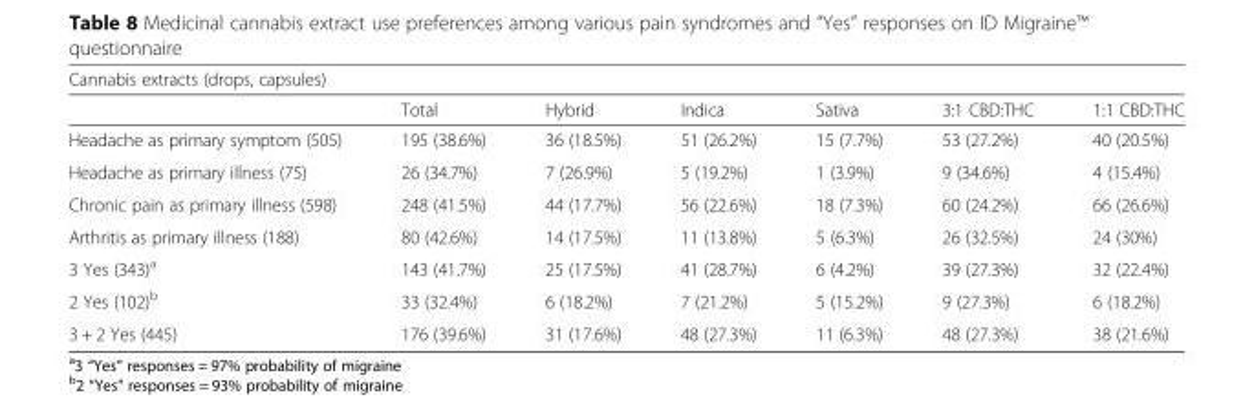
<table><thead><tr><td colspan="7">Cannabis extracts (drops, capsules)</td></tr><tr><td></td><td>Total</td><td>Hybrid</td><td>Indica</td><td>Sativa</td><td>3:1 CBD:THC</td><td>1:1 CBD:THC</td></tr></thead><tbody><tr><td>Headache as primary symptom (505)</td><td>195 (38.6%)</td><td>36 (18.5%)</td><td>51 (26.2%)</td><td>15 (7.7%)</td><td>53 (27.2%)</td><td>40 (20.5%)</td></tr><tr><td>Headache as primary illness (75)</td><td>26 (34.7%)</td><td>7 (26.9%)</td><td>5 (19.2%)</td><td>1 (3.9%)</td><td>9 (34.6%)</td><td>4 (15.4%)</td></tr><tr><td>Chronic pain as primary illness (598)</td><td>248 (41.5%)</td><td>44 (17.7%)</td><td>56 (22.6%)</td><td>18 (7.3%)</td><td>60 (24.2%)</td><td>66 (26.6%)</td></tr><tr><td>Arthritis as primary illness (188)</td><td>80 (42.6%)</td><td>14 (17.5%)</td><td>11 (13.8%)</td><td>5 (6.3%)</td><td>26 (32.5%)</td><td>24 (30%)</td></tr><tr><td>3 Yes (343)<sup>a</sup></td><td>143 (41.7%)</td><td>25 (17.5%)</td><td>41 (28.7%)</td><td>6 (4.2%)</td><td>39 (27.3%)</td><td>32 (22.4%)</td></tr><tr><td>2 Yes (102)<sup>b</sup></td><td>33 (32.4%)</td><td>6 (18.2%)</td><td>7 (21.2%)</td><td>5 (15.2%)</td><td>9 (27.3%)</td><td>6 (18.2%)</td></tr><tr><td>3 + 2 Yes (445)</td><td>176 (39.6%)</td><td>31 (17.6%)</td><td>48 (27.3%)</td><td>11 (6.3%)</td><td>48 (27.3%)</td><td>38 (21.6%)</td></tr></tbody></table>